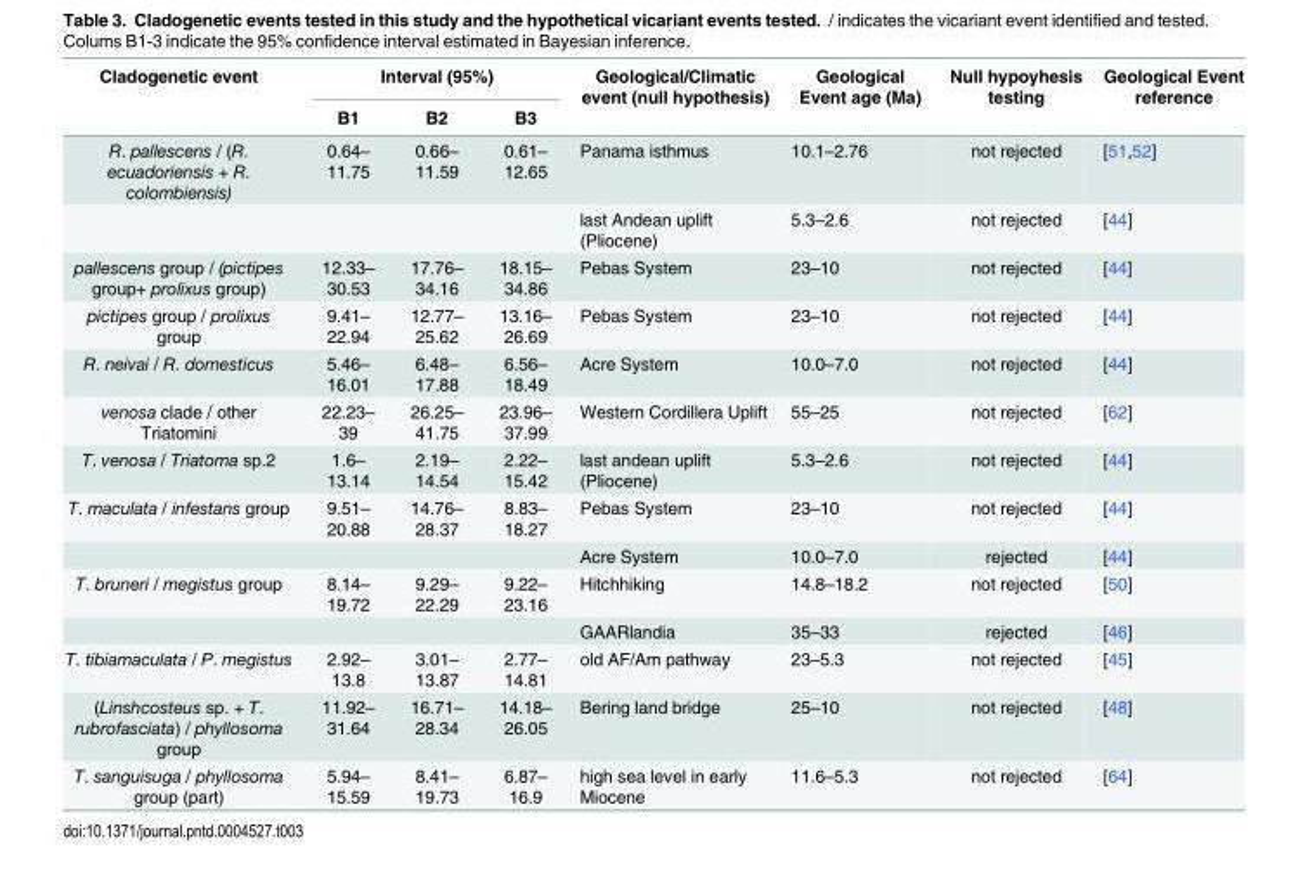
<table><thead><tr><td rowspan="2">Cladogenetic event</td><td colspan="3">Interval (95%)</td><td rowspan="2">Geological/Climatic event (null hypothesis)</td><td rowspan="2">Geological Event age (Ma)</td><td rowspan="2">Null hypoyhesis testing</td><td rowspan="2">Geological Event reference</td></tr><tr><td>B1</td><td>B2</td><td>B3</td></tr></thead><tbody><tr><td rowspan="2">R. pallescens / (R. ecuadoriensis + R. colombiensis)</td><td>0.64– 11.75</td><td>0.66– 11.59</td><td>0.61– 12.65</td><td>Panama isthmus</td><td>10.1–2.76</td><td>not rejected</td><td>[51,52]</td></tr><tr><td></td><td></td><td></td><td>last Andean uplift (Pliocene)</td><td>5.3–2.6</td><td>not rejected</td><td>[44]</td></tr><tr><td>pallescens group / (pictipes group+ prolixus group)</td><td>12.33– 30.53</td><td>17.76– 34.16</td><td>18.15– 34.86</td><td>Pebas System</td><td>23–10</td><td>not rejected</td><td>[44]</td></tr><tr><td>pictipes group / prolixus group</td><td>9.41– 22.94</td><td>12.77– 25.62</td><td>13.16– 26.69</td><td>Pebas System</td><td>23–10</td><td>not rejected</td><td>[44]</td></tr><tr><td>R. neivai / R. domesticus</td><td>5.46– 16.01</td><td>6.48– 17.88</td><td>6.56– 18.49</td><td>Acre System</td><td>10.0–7.0</td><td>not rejected</td><td>[44]</td></tr><tr><td>venosa clade / other Triatomini</td><td>22.23– 39</td><td>26.25– 41.75</td><td>23.96– 37.99</td><td>Western Cordillera Uplift</td><td>55–25</td><td>not rejected</td><td>[62]</td></tr><tr><td>T. venosa / Triatoma sp.2</td><td>1.6– 13.14</td><td>2.19– 14.54</td><td>2.22– 15.42</td><td>last andean uplift (Pliocene)</td><td>5.3–2.6</td><td>not rejected</td><td>[44]</td></tr><tr><td rowspan="2">T. maculata / infestans group</td><td>9.51– 20.88</td><td>14.76– 28.37</td><td>8.83– 18.27</td><td>Pebas System</td><td>23–10</td><td>not rejected</td><td>[44]</td></tr><tr><td></td><td></td><td></td><td>Acre System</td><td>10.0–7.0</td><td>rejected</td><td>[44]</td></tr><tr><td rowspan="2">T. bruneri / megistus group</td><td>8.14– 19.72</td><td>9.29– 22.29</td><td>9.22– 23.16</td><td>Hitchhiking</td><td>14.8–18.2</td><td>not rejected</td><td>[50]</td></tr><tr><td></td><td></td><td></td><td>GAARlandia</td><td>35–33</td><td>rejected</td><td>[46]</td></tr><tr><td>T. tibiamaculata / P. megistus</td><td>2.92– 13.8</td><td>3.01– 13.87</td><td>2.77– 14.81</td><td>old AF/Am pathway</td><td>23–5.3</td><td>not rejected</td><td>[45]</td></tr><tr><td>(Linshcosteus sp. + T. rubrofasciata) / phyllosoma group</td><td>11.92– 31.64</td><td>16.71– 28.34</td><td>14.18– 26.05</td><td>Bering land bridge</td><td>25–10</td><td>not rejected</td><td>[48]</td></tr><tr><td>T. sanguisuga / phyllosoma group (part)</td><td>5.94– 15.59</td><td>8.41– 19.73</td><td>6.87– 16.9</td><td>high sea level in early Miocene</td><td>11.6–5.3</td><td>not rejected</td><td>[64]</td></tr></tbody></table>